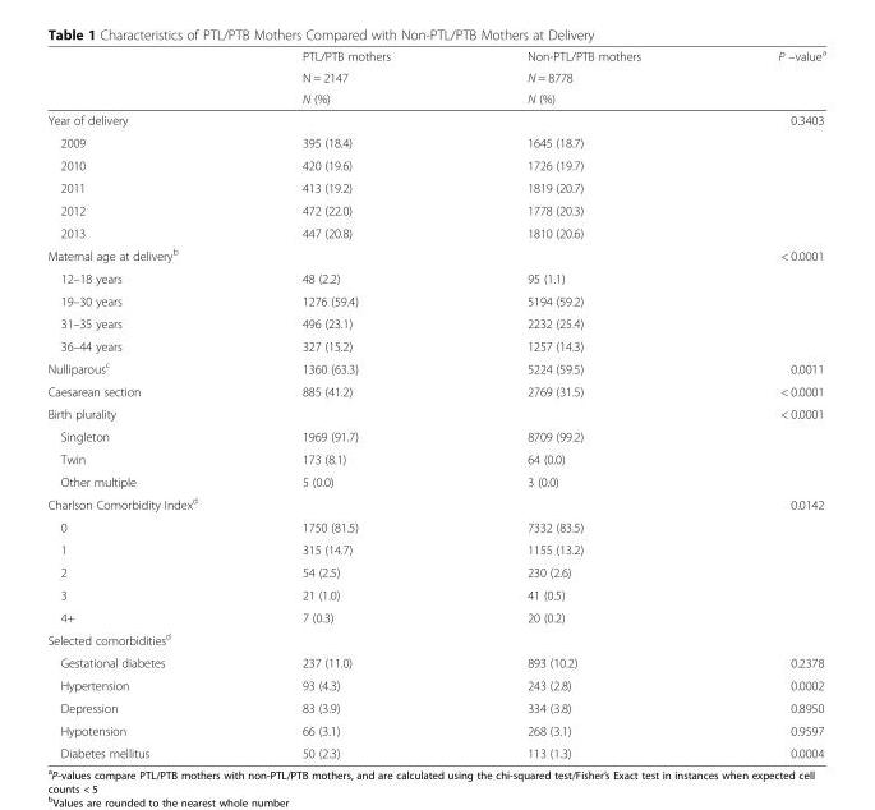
<table><thead><tr><td rowspan="3"></td><td rowspan="3">PTL/PTB mothers N = 2147 N (%)</td><td rowspan="3">Non-PTL/PTB mothers N = 8778 N (%)</td><td rowspan="3">P –value<sup>a</sup></td></tr><tr></tr><tr></tr></thead><tbody><tr><td colspan="3">Year of delivery</td><td>0.3403</td></tr><tr><td>2009</td><td>395 (18.4)</td><td>1645 (18.7)</td><td></td></tr><tr><td>2010</td><td>420 (19.6)</td><td>1726 (19.7)</td><td></td></tr><tr><td>2011</td><td>413 (19.2)</td><td>1819 (20.7)</td><td></td></tr><tr><td>2012</td><td>472 (22.0)</td><td>1778 (20.3)</td><td></td></tr><tr><td>2013</td><td>447 (20.8)</td><td>1810 (20.6)</td><td></td></tr><tr><td colspan="3">Maternal age at delivery<sup>b</sup></td><td>&lt; 0.0001</td></tr><tr><td>12–18 years</td><td>48 (2.2)</td><td>95 (1.1)</td><td></td></tr><tr><td>19–30 years</td><td>1276 (59.4)</td><td>5194 (59.2)</td><td></td></tr><tr><td>31–35 years</td><td>496 (23.1)</td><td>2232 (25.4)</td><td></td></tr><tr><td>36–44 years</td><td>327 (15.2)</td><td>1257 (14.3)</td><td></td></tr><tr><td>Nulliparous<sup>c</sup></td><td>1360 (63.3)</td><td>5224 (59.5)</td><td>0.0011</td></tr><tr><td>Caesarean section</td><td>885 (41.2)</td><td>2769 (31.5)</td><td>&lt; 0.0001</td></tr><tr><td colspan="3">Birth plurality</td><td>&lt; 0.0001</td></tr><tr><td>Singleton</td><td>1969 (91.7)</td><td>8709 (99.2)</td><td></td></tr><tr><td>Twin</td><td>173 (8.1)</td><td>64 (0.0)</td><td></td></tr><tr><td>Other multiple</td><td>5 (0.0)</td><td>3 (0.0)</td><td></td></tr><tr><td colspan="3">Charlson Comorbidity Index<sup>d</sup></td><td>0.0142</td></tr><tr><td>0</td><td>1750 (81.5)</td><td>7332 (83.5)</td><td></td></tr><tr><td>1</td><td>315 (14.7)</td><td>1155 (13.2)</td><td></td></tr><tr><td>2</td><td>54 (2.5)</td><td>230 (2.6)</td><td></td></tr><tr><td>3</td><td>21 (1.0)</td><td>41 (0.5)</td><td></td></tr><tr><td>4+</td><td>7 (0.3)</td><td>20 (0.2)</td><td></td></tr><tr><td colspan="4">Selected comorbidities<sup>d</sup></td></tr><tr><td>Gestational diabetes</td><td>237 (11.0)</td><td>893 (10.2)</td><td>0.2378</td></tr><tr><td>Hypertension</td><td>93 (4.3)</td><td>243 (2.8)</td><td>0.0002</td></tr><tr><td>Depression</td><td>83 (3.9)</td><td>334 (3.8)</td><td>0.8950</td></tr><tr><td>Hypotension</td><td>66 (3.1)</td><td>268 (3.1)</td><td>0.9597</td></tr><tr><td>Diabetes mellitus</td><td>50 (2.3)</td><td>113 (1.3)</td><td>0.0004</td></tr></tbody></table>